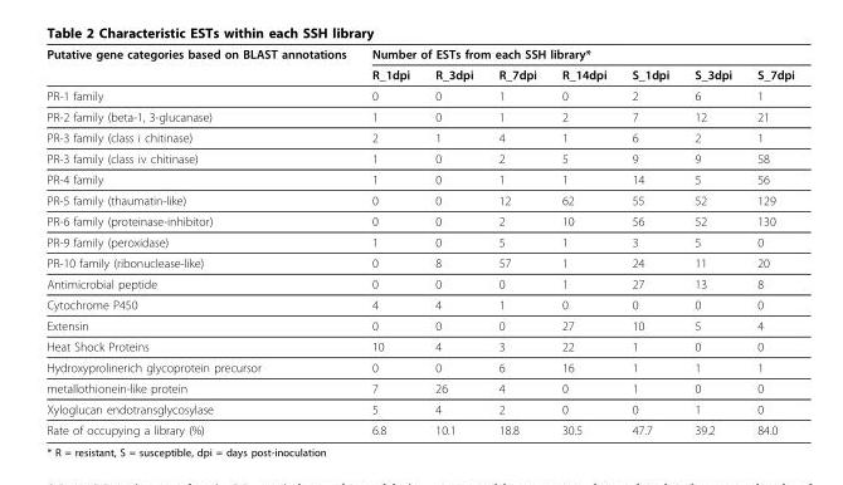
<table><thead><tr><td rowspan="2">Putative gene categories based on BLAST annotations</td><td colspan="7">Number of ESTs from each SSH library*</td></tr><tr><td>R_1dpi</td><td>R_3dpi</td><td>R_7dpi</td><td>R_14dpi</td><td>S_1dpi</td><td>S_3dpi</td><td>S_7dpi</td></tr></thead><tbody><tr><td>PR-1 family</td><td>0</td><td>0</td><td>1</td><td>0</td><td>2</td><td>6</td><td>1</td></tr><tr><td>PR-2 family (beta-1, 3-glucanase)</td><td>1</td><td>0</td><td>1</td><td>2</td><td>7</td><td>12</td><td>21</td></tr><tr><td>PR-3 family (class i chitinase)</td><td>2</td><td>1</td><td>4</td><td>1</td><td>6</td><td>2</td><td>1</td></tr><tr><td>PR-3 family (class iv chitinase)</td><td>1</td><td>0</td><td>2</td><td>5</td><td>9</td><td>9</td><td>58</td></tr><tr><td>PR-4 family</td><td>1</td><td>0</td><td>1</td><td>1</td><td>14</td><td>5</td><td>56</td></tr><tr><td>PR-5 family (thaumatin-like)</td><td>0</td><td>0</td><td>12</td><td>62</td><td>55</td><td>52</td><td>129</td></tr><tr><td>PR-6 family (proteinase-inhibitor)</td><td>0</td><td>0</td><td>2</td><td>10</td><td>56</td><td>52</td><td>130</td></tr><tr><td>PR-9 family (peroxidase)</td><td>1</td><td>0</td><td>5</td><td>1</td><td>3</td><td>5</td><td>0</td></tr><tr><td>PR-10 family (ribonuclease-like)</td><td>0</td><td>8</td><td>57</td><td>1</td><td>24</td><td>11</td><td>20</td></tr><tr><td>Antimicrobial peptide</td><td>0</td><td>0</td><td>0</td><td>1</td><td>27</td><td>13</td><td>8</td></tr><tr><td>Cytochrome P450</td><td>4</td><td>4</td><td>1</td><td>0</td><td>0</td><td>0</td><td>0</td></tr><tr><td>Extensin</td><td>0</td><td>0</td><td>0</td><td>27</td><td>10</td><td>5</td><td>4</td></tr><tr><td>Heat Shock Proteins</td><td>10</td><td>4</td><td>3</td><td>22</td><td>1</td><td>0</td><td>0</td></tr><tr><td>Hydroxyprolinerich glycoprotein precursor</td><td>0</td><td>0</td><td>6</td><td>16</td><td>1</td><td>1</td><td>1</td></tr><tr><td>metallothionein-like protein</td><td>7</td><td>26</td><td>4</td><td>0</td><td>1</td><td>0</td><td>0</td></tr><tr><td>Xyloglucan endotransglycosylase</td><td>5</td><td>4</td><td>2</td><td>0</td><td>0</td><td>1</td><td>0</td></tr><tr><td>Rate of occupying a library (%)</td><td>6.8</td><td>10.1</td><td>18.8</td><td>30.5</td><td>47.7</td><td>39.2</td><td>84.0</td></tr></tbody></table>